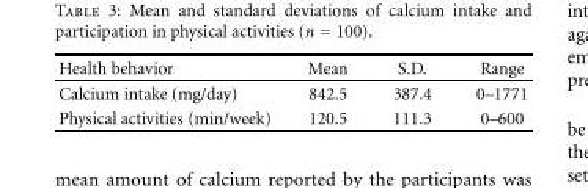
<table><thead><tr><td>Health behavior</td><td>Mean</td><td>S.D.</td><td>Range</td></tr></thead><tbody><tr><td>Calcium intake (mg/day)</td><td>842.5</td><td>387.4</td><td>0–1771</td></tr><tr><td>Physical activities (min/week)</td><td>120.5</td><td>111.3</td><td>0–600</td></tr></tbody></table>